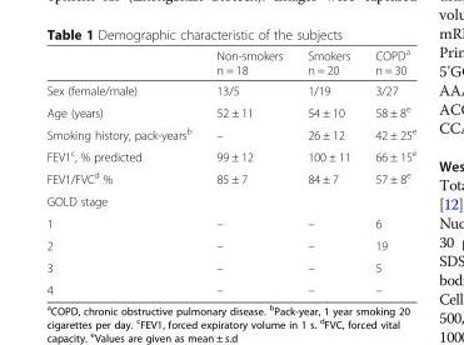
<table><thead><tr><td></td><td>Non-smokers n = 18</td><td>Smokers n = 20</td><td>COPD<sup>a</sup> n = 30</td></tr></thead><tbody><tr><td>Sex (female/male)</td><td>13/5</td><td>1/19</td><td>3/27</td></tr><tr><td>Age (years)</td><td>52 ± 11</td><td>54 ± 10</td><td>58 ± 8<sup>e</sup></td></tr><tr><td>Smoking history, pack-years<sup>b</sup></td><td>–</td><td>26 ± 12</td><td>42 ± 25<sup>e</sup></td></tr><tr><td>FEV1<sup>c</sup>, % predicted</td><td>99 ± 12</td><td>100 ± 11</td><td>66 ± 15<sup>e</sup></td></tr><tr><td>FEV1/FVC<sup>d</sup> %</td><td>85 ± 7</td><td>84 ± 7</td><td>57 ± 8<sup>e</sup></td></tr><tr><td colspan="4">GOLD stage</td></tr><tr><td>1</td><td>–</td><td>–</td><td>6</td></tr><tr><td>2</td><td>–</td><td>–</td><td>19</td></tr><tr><td>3</td><td>–</td><td>–</td><td>5</td></tr><tr><td>4</td><td>–</td><td>–</td><td>–</td></tr></tbody></table>